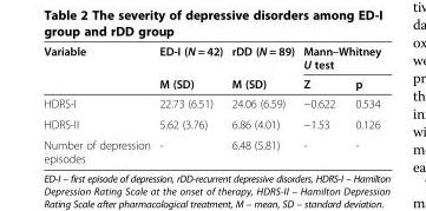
<table><thead><tr><td rowspan="2">Variable</td><td rowspan="2">ED-I (N = 42) M (SD)</td><td rowspan="2">rDD (N = 89) M (SD)</td><td colspan="2">Mann–Whitney U test</td></tr><tr><td>Z</td><td>p</td></tr></thead><tbody><tr><td>HDRS-I</td><td>22.73 (6.51)</td><td>24.06 (6.59)</td><td>−0.622</td><td>0.534</td></tr><tr><td>HDRS-II</td><td>5.62 (3.76)</td><td>6.86 (4.01)</td><td>−1.53</td><td>0.126</td></tr><tr><td>Number of depression episodes</td><td>-</td><td>6.48 (5.81)</td><td>-</td><td>-</td></tr></tbody></table>